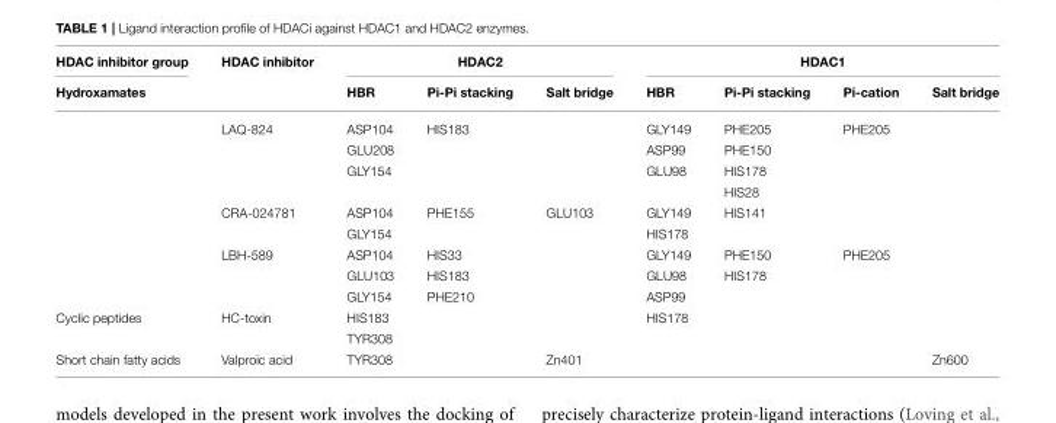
<table><thead><tr><td rowspan="2">HDAC inhibitor group Hydroxamates</td><td rowspan="2">HDAC inhibitor</td><td colspan="3">HDAC2</td><td colspan="4">HDAC1</td></tr><tr><td>HBR</td><td>Pi-Pi stacking</td><td>Salt bridge</td><td>HBR</td><td>Pi-Pi stacking</td><td>Pi-cation</td><td>Salt bridge</td></tr></thead><tbody><tr><td></td><td>LAQ-824</td><td>ASP104</td><td>HIS183</td><td></td><td>GLY149</td><td>PHE205</td><td>PHE205</td><td></td></tr><tr><td></td><td></td><td>GLU208</td><td></td><td></td><td>ASP99</td><td>PHE150</td><td></td><td></td></tr><tr><td></td><td></td><td>GLY154</td><td></td><td></td><td>GLU98</td><td>HIS178</td><td></td><td></td></tr><tr><td></td><td></td><td></td><td></td><td></td><td></td><td>HIS28</td><td></td><td></td></tr><tr><td></td><td>CRA-024781</td><td>ASP104</td><td>PHE155</td><td>GLU103</td><td>GLY149</td><td>HIS141</td><td></td><td></td></tr><tr><td></td><td></td><td>GLY154</td><td></td><td></td><td>HIS178</td><td></td><td></td><td></td></tr><tr><td></td><td>LBH-589</td><td>ASP104</td><td>HIS33</td><td></td><td>GLY149</td><td>PHE150</td><td>PHE205</td><td></td></tr><tr><td></td><td></td><td>GLU103</td><td>HIS183</td><td></td><td>GLU98</td><td>HIS178</td><td></td><td></td></tr><tr><td></td><td></td><td>GLY154</td><td>PHE210</td><td></td><td>ASP99</td><td></td><td></td><td></td></tr><tr><td rowspan="2">Cyclic peptides</td><td>HC-toxin</td><td>HIS183</td><td></td><td></td><td>HIS178</td><td></td><td></td><td></td></tr><tr><td></td><td>TYR308</td><td></td><td></td><td></td><td></td><td></td><td></td></tr><tr><td>Short chain fatty acids</td><td>Valproic acid</td><td>TYR308</td><td></td><td>Zn401</td><td></td><td></td><td></td><td>Zn600</td></tr></tbody></table>